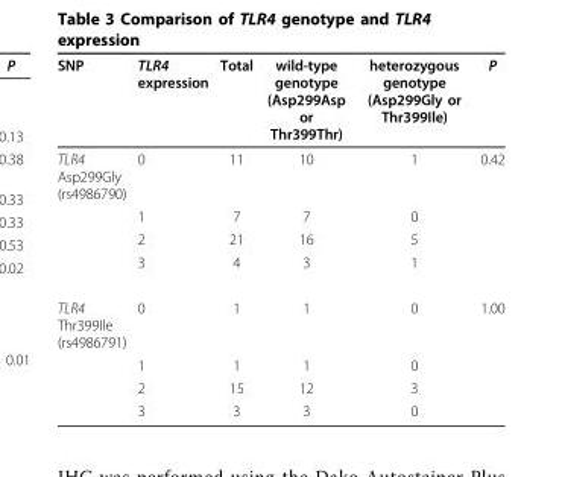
<table><thead><tr><td>SNP</td><td>TLR4 expression</td><td>Total</td><td>wild-type genotype (Asp299Asp or Thr399Thr)</td><td>heterozygous genotype (Asp299Gly or Thr399Ile)</td><td>P</td></tr></thead><tbody><tr><td rowspan="4">TLR4 Asp299Gly (rs4986790)</td><td>0</td><td>11</td><td>10</td><td>1</td><td>0.42</td></tr><tr><td>1</td><td>7</td><td>7</td><td>0</td><td></td></tr><tr><td>2</td><td>21</td><td>16</td><td>5</td><td></td></tr><tr><td>3</td><td>4</td><td>3</td><td>1</td><td></td></tr><tr><td rowspan="4">TLR4 Thr399Ile (rs4986791)</td><td>0</td><td>1</td><td>1</td><td>0</td><td>1.00</td></tr><tr><td>1</td><td>1</td><td>1</td><td>0</td><td></td></tr><tr><td>2</td><td>15</td><td>12</td><td>3</td><td></td></tr><tr><td>3</td><td>3</td><td>3</td><td>0</td><td></td></tr></tbody></table>